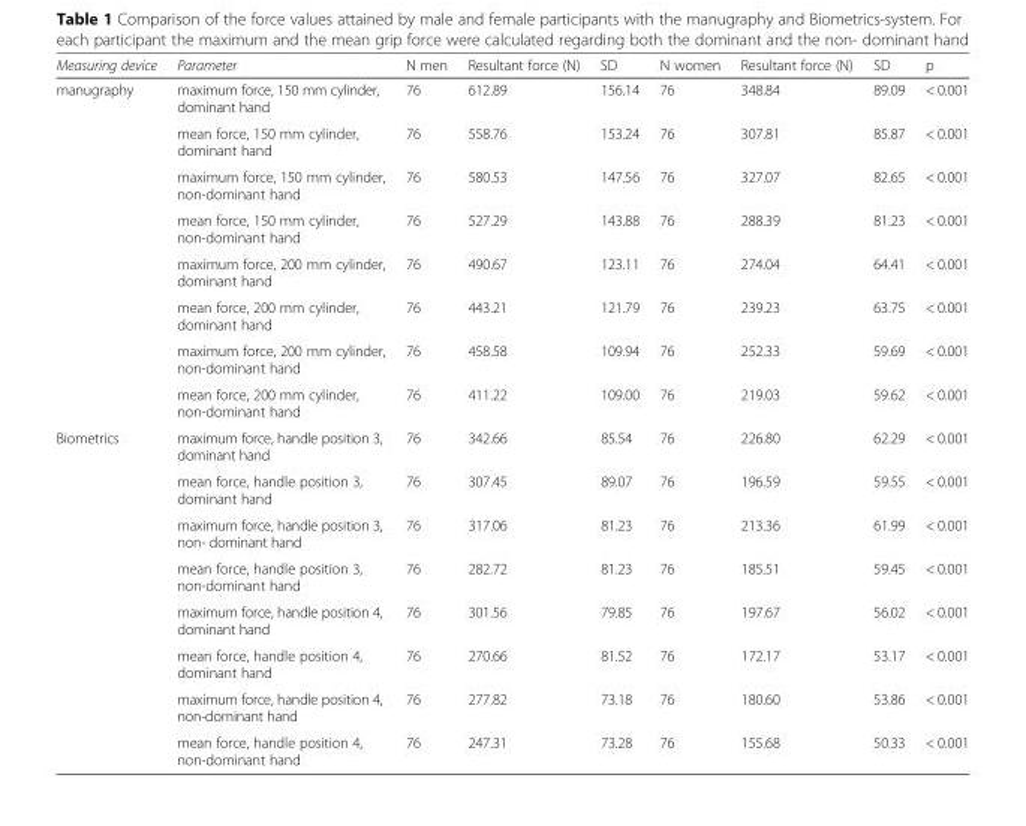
<table><thead><tr><td>Measuring device</td><td>Parameter</td><td>N men</td><td>Resultant force (N)</td><td>SD</td><td>N women</td><td>Resultant force (N)</td><td>SD</td><td>p</td></tr></thead><tbody><tr><td rowspan="8">manugraphy</td><td>maximum force, 150 mm cylinder, dominant hand</td><td>76</td><td>612.89</td><td>156.14</td><td>76</td><td>348.84</td><td>89.09</td><td>&lt; 0.001</td></tr><tr><td>mean force, 150 mm cylinder, dominant hand</td><td>76</td><td>558.76</td><td>153.24</td><td>76</td><td>307.81</td><td>85.87</td><td>&lt; 0.001</td></tr><tr><td>maximum force, 150 mm cylinder, non-dominant hand</td><td>76</td><td>580.53</td><td>147.56</td><td>76</td><td>327.07</td><td>82.65</td><td>&lt; 0.001</td></tr><tr><td>mean force, 150 mm cylinder, non-dominant hand</td><td>76</td><td>527.29</td><td>143.88</td><td>76</td><td>288.39</td><td>81.23</td><td>&lt; 0.001</td></tr><tr><td>maximum force, 200 mm cylinder, dominant hand</td><td>76</td><td>490.67</td><td>123.11</td><td>76</td><td>274.04</td><td>64.41</td><td>&lt; 0.001</td></tr><tr><td>mean force, 200 mm cylinder, dominant hand</td><td>76</td><td>443.21</td><td>121.79</td><td>76</td><td>239.23</td><td>63.75</td><td>&lt; 0.001</td></tr><tr><td>maximum force, 200 mm cylinder, non-dominant hand</td><td>76</td><td>458.58</td><td>109.94</td><td>76</td><td>252.33</td><td>59.69</td><td>&lt; 0.001</td></tr><tr><td>mean force, 200 mm cylinder, non-dominant hand</td><td>76</td><td>411.22</td><td>109.00</td><td>76</td><td>219.03</td><td>59.62</td><td>&lt; 0.001</td></tr><tr><td rowspan="8">Biometrics</td><td>maximum force, handle position 3, dominant hand</td><td>76</td><td>342.66</td><td>85.54</td><td>76</td><td>226.80</td><td>62.29</td><td>&lt; 0.001</td></tr><tr><td>mean force, handle position 3, dominant hand</td><td>76</td><td>307.45</td><td>89.07</td><td>76</td><td>196.59</td><td>59.55</td><td>&lt; 0.001</td></tr><tr><td>maximum force, handle position 3, non- dominant hand</td><td>76</td><td>317.06</td><td>81.23</td><td>76</td><td>213.36</td><td>61.99</td><td>&lt; 0.001</td></tr><tr><td>mean force, handle position 3, non-dominant hand</td><td>76</td><td>282.72</td><td>81.23</td><td>76</td><td>185.51</td><td>59.45</td><td>&lt; 0.001</td></tr><tr><td>maximum force, handle position 4, dominant hand</td><td>76</td><td>301.56</td><td>79.85</td><td>76</td><td>197.67</td><td>56.02</td><td>&lt; 0.001</td></tr><tr><td>mean force, handle position 4, dominant hand</td><td>76</td><td>270.66</td><td>81.52</td><td>76</td><td>172.17</td><td>53.17</td><td>&lt; 0.001</td></tr><tr><td>maximum force, handle position 4, non-dominant hand</td><td>76</td><td>277.82</td><td>73.18</td><td>76</td><td>180.60</td><td>53.86</td><td>&lt; 0.001</td></tr><tr><td>mean force, handle position 4, non-dominant hand</td><td>76</td><td>247.31</td><td>73.28</td><td>76</td><td>155.68</td><td>50.33</td><td>&lt; 0.001</td></tr></tbody></table>